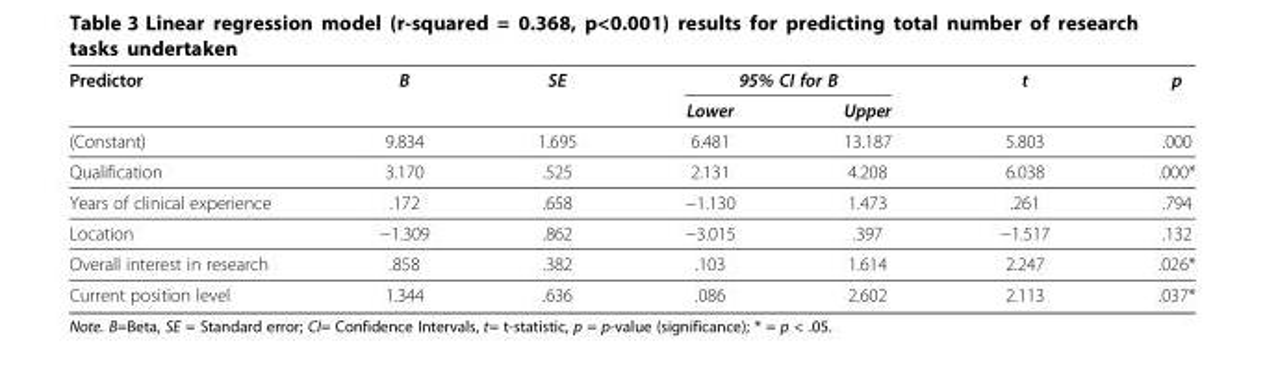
<table><thead><tr><td rowspan="2">Predictor</td><td rowspan="2">B</td><td rowspan="2">SE</td><td colspan="2">95% CI for B</td><td rowspan="2">t</td><td rowspan="2">p</td></tr><tr><td>Lower</td><td>Upper</td></tr></thead><tbody><tr><td>(Constant)</td><td>9.834</td><td>1.695</td><td>6.481</td><td>13.187</td><td>5.803</td><td>.000</td></tr><tr><td>Qualification</td><td>3.170</td><td>.525</td><td>2.131</td><td>4.208</td><td>6.038</td><td>.000*</td></tr><tr><td>Years of clinical experience</td><td>.172</td><td>.658</td><td>−1.130</td><td>1.473</td><td>.261</td><td>.794</td></tr><tr><td>Location</td><td>−1.309</td><td>.862</td><td>−3.015</td><td>.397</td><td>−1.517</td><td>.132</td></tr><tr><td>Overall interest in research</td><td>.858</td><td>.382</td><td>.103</td><td>1.614</td><td>2.247</td><td>.026*</td></tr><tr><td>Current position level</td><td>1.344</td><td>.636</td><td>.086</td><td>2.602</td><td>2.113</td><td>.037*</td></tr></tbody></table>